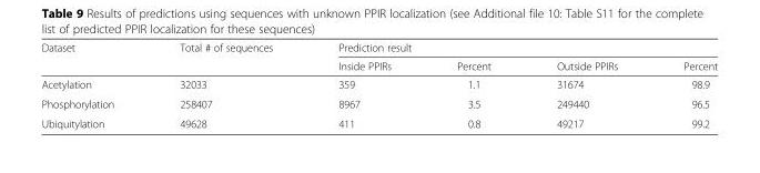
<table><thead><tr><td rowspan="2">Dataset</td><td rowspan="2">Total # of sequences</td><td colspan="4">Prediction result</td></tr><tr><td>Inside PPIRs</td><td>Percent</td><td>Outside PPIRs</td><td>Percent</td></tr></thead><tbody><tr><td>Acetylation</td><td>32033</td><td>359</td><td>1.1</td><td>31674</td><td>98.9</td></tr><tr><td>Phosphorylation</td><td>258407</td><td>8967</td><td>3.5</td><td>249440</td><td>96.5</td></tr><tr><td>Ubiquitylation</td><td>49628</td><td>411</td><td>0.8</td><td>49217</td><td>99.2</td></tr></tbody></table>